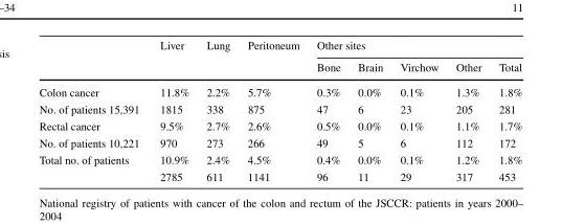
<table><thead><tr><td rowspan="2"></td><td rowspan="2">Liver</td><td rowspan="2">Lung</td><td rowspan="2">Peritoneum</td><td colspan="5">Other sites</td></tr><tr><td>Bone</td><td>Brain</td><td>Virchow</td><td>Other</td><td>Total</td></tr></thead><tbody><tr><td>Colon cancer</td><td>11.8%</td><td>2.2%</td><td>5.7%</td><td>0.3%</td><td>0.0%</td><td>0.1%</td><td>1.3%</td><td>1.8%</td></tr><tr><td>No. of patients 15,391</td><td>1815</td><td>338</td><td>875</td><td>47</td><td>6</td><td>23</td><td>205</td><td>281</td></tr><tr><td>Rectal cancer</td><td>9.5%</td><td>2.7%</td><td>2.6%</td><td>0.5%</td><td>0.0%</td><td>0.1%</td><td>1.1%</td><td>1.7%</td></tr><tr><td>No. of patients 10,221</td><td>970</td><td>273</td><td>266</td><td>49</td><td>5</td><td>6</td><td>112</td><td>172</td></tr><tr><td rowspan="2">Total no. of patients</td><td>10.9%</td><td>2.4%</td><td>4.5%</td><td>0.4%</td><td>0.0%</td><td>0.1%</td><td>1.2%</td><td>1.8%</td></tr><tr><td>2785</td><td>611</td><td>1141</td><td>96</td><td>11</td><td>29</td><td>317</td><td>453</td></tr></tbody></table>